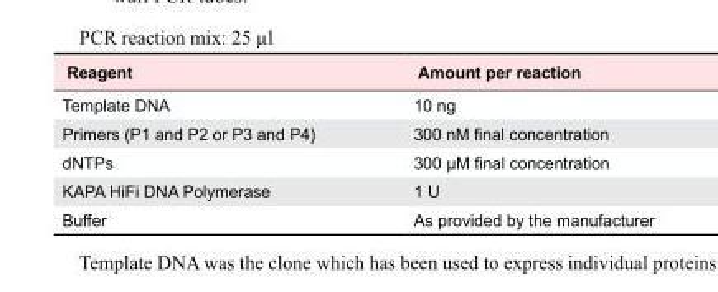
<table><tbody><tr><td>Reagent</td><td>Amount per reaction</td></tr><tr><td>Template DNA</td><td>10 ng</td></tr><tr><td>Primers (P1 and P2 or P3 and P4)</td><td>300 nM final concentration</td></tr><tr><td>dNTPs</td><td>300 µM final concentration</td></tr><tr><td>KAPA HiFi DNA Polymerase</td><td>1 U</td></tr><tr><td>Buffer</td><td>As provided by the manufacturer</td></tr></tbody></table>